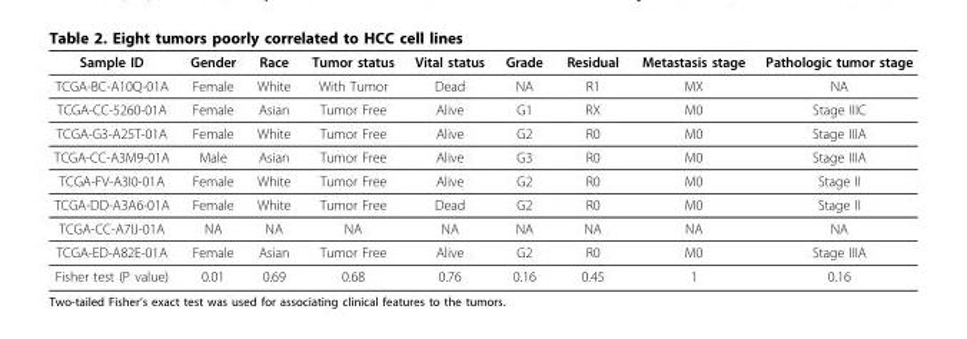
<table><thead><tr><td>Sample ID</td><td>Gender</td><td>Race</td><td>Tumor status</td><td>Vital status</td><td>Grade</td><td>Residual</td><td>Metastasis stage</td><td>Pathologic tumor stage</td></tr></thead><tbody><tr><td>TCGA-BC-A10Q-01A</td><td>Female</td><td>White</td><td>With Tumor</td><td>Dead</td><td>NA</td><td>R1</td><td>MX</td><td>NA</td></tr><tr><td>TCGA-CC-5260-01A</td><td>Female</td><td>Asian</td><td>Tumor Free</td><td>Alive</td><td>G1</td><td>RX</td><td>M0</td><td>Stage IIIC</td></tr><tr><td>TCGA-G3-A25T-01A</td><td>Female</td><td>White</td><td>Tumor Free</td><td>Alive</td><td>G2</td><td>R0</td><td>M0</td><td>Stage IIIA</td></tr><tr><td>TCGA-CC-A3M9-01A</td><td>Male</td><td>Asian</td><td>Tumor Free</td><td>Alive</td><td>G3</td><td>R0</td><td>M0</td><td>Stage IIIA</td></tr><tr><td>TCGA-FV-A3I0-01A</td><td>Female</td><td>White</td><td>Tumor Free</td><td>Alive</td><td>G2</td><td>R0</td><td>M0</td><td>Stage II</td></tr><tr><td>TCGA-DD-A3A6-01A</td><td>Female</td><td>White</td><td>Tumor Free</td><td>Dead</td><td>G2</td><td>R0</td><td>M0</td><td>Stage II</td></tr><tr><td>TCGA-CC-A7IJ-01A</td><td>NA</td><td>NA</td><td>NA</td><td>NA</td><td>NA</td><td>NA</td><td>NA</td><td>NA</td></tr><tr><td>TCGA-ED-A82E-01A</td><td>Female</td><td>Asian</td><td>Tumor Free</td><td>Alive</td><td>G2</td><td>R0</td><td>M0</td><td>Stage IIIA</td></tr><tr><td>Fisher test (P value)</td><td>0.01</td><td>0.69</td><td>0.68</td><td>0.76</td><td>0.16</td><td>0.45</td><td>1</td><td>0.16</td></tr></tbody></table>